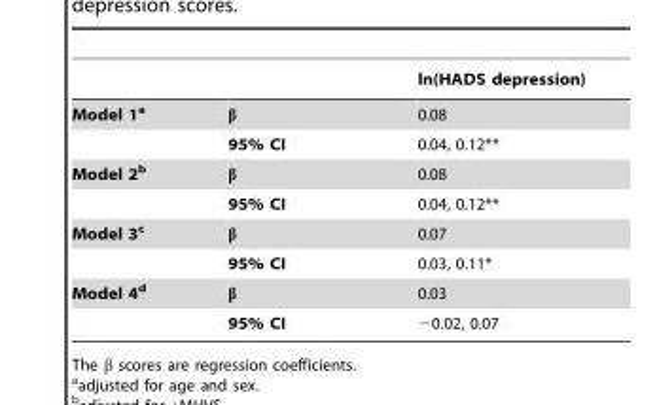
<table><thead><tr><td></td><td></td><td>ln(HADS depression)</td></tr></thead><tbody><tr><td rowspan="2">Model 1a</td><td>β</td><td>0.08</td></tr><tr><td>95% CI</td><td>0.04, 0.12**</td></tr><tr><td rowspan="2">Model 2b</td><td>β</td><td>0.08</td></tr><tr><td>95% CI</td><td>0.04, 0.12**</td></tr><tr><td rowspan="2">Model 3c</td><td>β</td><td>0.07</td></tr><tr><td>95% CI</td><td>0.03, 0.11*</td></tr><tr><td rowspan="2">Model 4d</td><td>β</td><td>0.03</td></tr><tr><td>95% CI</td><td>−0.02, 0.07</td></tr></tbody></table>